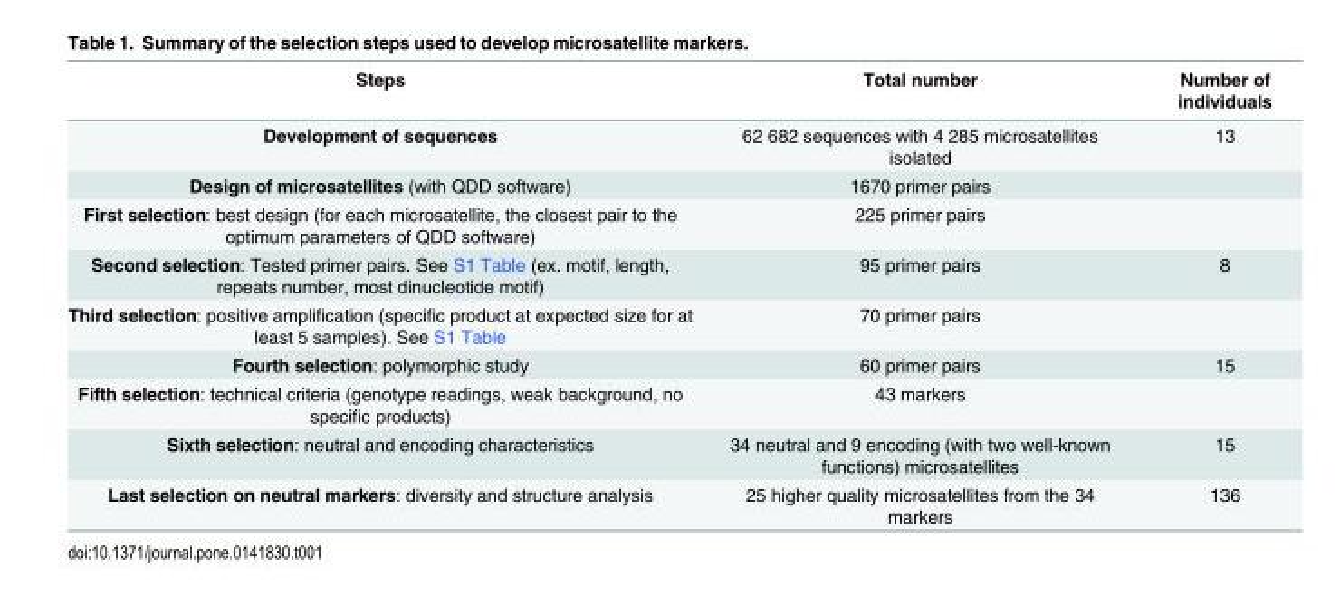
<table><thead><tr><td>Steps</td><td>Total number</td><td>Number of individuals</td></tr></thead><tbody><tr><td>Development of sequences</td><td>62 682 sequences with 4 285 microsatellites isolated</td><td>13</td></tr><tr><td>Design of microsatellites (with QDD software)</td><td>1670 primer pairs</td><td></td></tr><tr><td>First selection: best design (for each microsatellite, the closest pair to the optimum parameters of QDD software)</td><td>225 primer pairs</td><td></td></tr><tr><td>Second selection: Tested primer pairs. See S1 Table (ex. motif, length, repeats number, most dinucleotide motif)</td><td>95 primer pairs</td><td>8</td></tr><tr><td>Third selection: positive amplification (specific product at expected size for at least 5 samples). See S1 Table</td><td>70 primer pairs</td><td></td></tr><tr><td>Fourth selection: polymorphic study</td><td>60 primer pairs</td><td>15</td></tr><tr><td>Fifth selection: technical criteria (genotype readings, weak background, no specific products)</td><td>43 markers</td><td></td></tr><tr><td>Sixth selection: neutral and encoding characteristics</td><td>34 neutral and 9 encoding (with two well-known functions) microsatellites</td><td>15</td></tr><tr><td>Last selection on neutral markers: diversity and structure analysis</td><td>25 higher quality microsatellites from the 34 markers</td><td>136</td></tr></tbody></table>